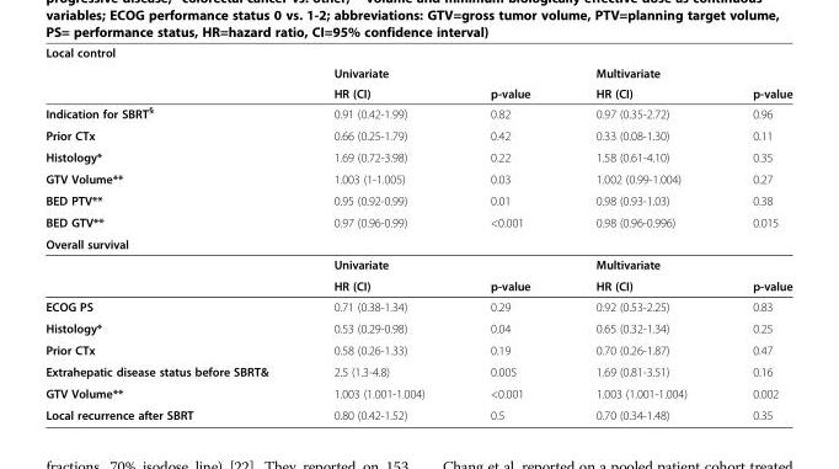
<table><thead><tr><td rowspan="3">Local control</td><td rowspan="3">Univariate HR (CI)</td><td rowspan="3">p-value</td><td rowspan="3">Multivariate HR (CI)</td><td rowspan="3">p-value</td></tr><tr></tr><tr></tr></thead><tbody><tr><td>Indication for SBRT<sup>§</sup></td><td>0.91 (0.42-1.99)</td><td>0.82</td><td>0.97 (0.35-2.72)</td><td>0.96</td></tr><tr><td>Prior CTx</td><td>0.66 (0.25-1.79)</td><td>0.42</td><td>0.33 (0.08-1.30)</td><td>0.11</td></tr><tr><td>Histology*</td><td>1.69 (0.72-3.98)</td><td>0.22</td><td>1.58 (0.61-4.10)</td><td>0.35</td></tr><tr><td>GTV Volume**</td><td>1.003 (1-1.005)</td><td>0.03</td><td>1.002 (0.99-1.004)</td><td>0.27</td></tr><tr><td>BED PTV**</td><td>0.95 (0.92-0.99)</td><td>0.01</td><td>0.98 (0.93-1.03)</td><td>0.38</td></tr><tr><td>BED GTV**</td><td>0.97 (0.96-0.99)</td><td>&lt;0.001</td><td>0.98 (0.96-0.996)</td><td>0.015</td></tr><tr><td colspan="5">Overall survival</td></tr><tr><td></td><td>Univariate</td><td></td><td>Multivariate</td><td></td></tr><tr><td></td><td>HR (CI)</td><td>p-value</td><td>HR (CI)</td><td>p-value</td></tr><tr><td>ECOG PS</td><td>0.71 (0.38-1.34)</td><td>0.29</td><td>0.92 (0.53-2.25)</td><td>0.83</td></tr><tr><td>Histology*</td><td>0.53 (0.29-0.98)</td><td>0.04</td><td>0.65 (0.32-1.34)</td><td>0.25</td></tr><tr><td>Prior CTx</td><td>0.58 (0.26-1.33)</td><td>0.19</td><td>0.70 (0.26-1.87)</td><td>0.47</td></tr><tr><td>Extrahepatic disease status before SBRT&amp;</td><td>2.5 (1.3-4.8)</td><td>0.005</td><td>1.69 (0.81-3.51)</td><td>0.16</td></tr><tr><td>GTV Volume**</td><td>1.003 (1.001-1.004)</td><td>&lt;0.001</td><td>1.003 (1.001-1.004)</td><td>0.002</td></tr><tr><td>Local recurrence after SBRT</td><td>0.80 (0.42-1.52)</td><td>0.5</td><td>0.70 (0.34-1.48)</td><td>0.35</td></tr></tbody></table>